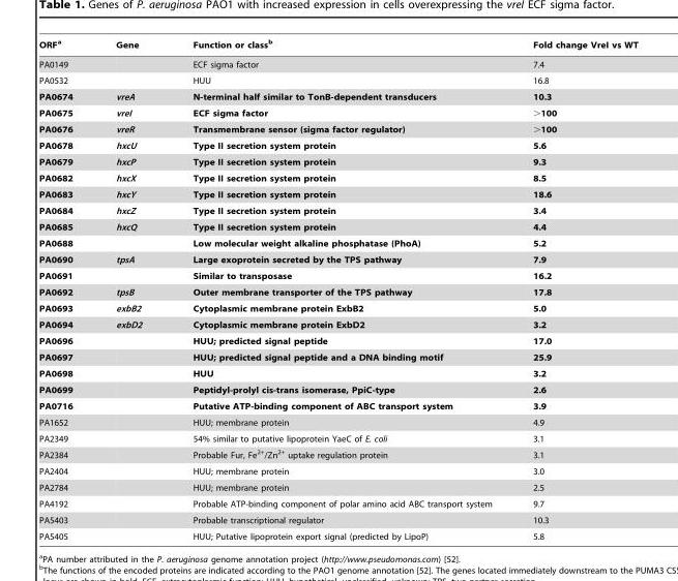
<table><thead><tr><td>ORF<sup>a</sup></td><td>Gene</td><td>Function or class<sup>b</sup></td><td>Fold change VreI vs WT</td></tr></thead><tbody><tr><td>PA0149</td><td></td><td>ECF sigma factor</td><td>7.4</td></tr><tr><td>PA0532</td><td></td><td>HUU</td><td>16.8</td></tr><tr><td>PA0674</td><td>vreA</td><td>N-terminal half similar to TonB-dependent transducers</td><td>10.3</td></tr><tr><td>PA0675</td><td>vreI</td><td>ECF sigma factor</td><td>&gt;100</td></tr><tr><td>PA0676</td><td>vreR</td><td>Transmembrane sensor (sigma factor regulator)</td><td>&gt;100</td></tr><tr><td>PA0678</td><td>hxcU</td><td>Type II secretion system protein</td><td>5.6</td></tr><tr><td>PA0679</td><td>hxcP</td><td>Type II secretion system protein</td><td>9.3</td></tr><tr><td>PA0682</td><td>hxcX</td><td>Type II secretion system protein</td><td>8.5</td></tr><tr><td>PA0683</td><td>hxcY</td><td>Type II secretion system protein</td><td>18.6</td></tr><tr><td>PA0684</td><td>hxcZ</td><td>Type II secretion system protein</td><td>3.4</td></tr><tr><td>PA0685</td><td>hxcQ</td><td>Type II secretion system protein</td><td>4.4</td></tr><tr><td>PA0688</td><td></td><td>Low molecular weight alkaline phosphatase (PhoA)</td><td>5.2</td></tr><tr><td>PA0690</td><td>tpsA</td><td>Large exoprotein secreted by the TPS pathway</td><td>7.9</td></tr><tr><td>PA0691</td><td></td><td>Similar to transposase</td><td>16.2</td></tr><tr><td>PA0692</td><td>tpsB</td><td>Outer membrane transporter of the TPS pathway</td><td>17.8</td></tr><tr><td>PA0693</td><td>exbB2</td><td>Cytoplasmic membrane protein ExbB2</td><td>5.0</td></tr><tr><td>PA0694</td><td>exbD2</td><td>Cytoplasmic membrane protein ExbD2</td><td>3.2</td></tr><tr><td>PA0696</td><td></td><td>HUU; predicted signal peptide</td><td>17.0</td></tr><tr><td>PA0697</td><td></td><td>HUU; predicted signal peptide and a DNA binding motif</td><td>25.9</td></tr><tr><td>PA0698</td><td></td><td>HUU</td><td>3.2</td></tr><tr><td>PA0699</td><td></td><td>Peptidyl-prolyl cis-trans isomerase, PpiC-type</td><td>2.6</td></tr><tr><td>PA0716</td><td></td><td>Putative ATP-binding component of ABC transport system</td><td>3.9</td></tr><tr><td>PA1652</td><td></td><td>HUU; membrane protein</td><td>4.9</td></tr><tr><td>PA2349</td><td></td><td>54% similar to putative lipoprotein YaeC of E. coli</td><td>3.1</td></tr><tr><td>PA2384</td><td></td><td>Probable Fur, Fe<sup>2+</sup>/Zn<sup>2+</sup> uptake regulation protein</td><td>3.1</td></tr><tr><td>PA2404</td><td></td><td>HUU; membrane protein</td><td>3.0</td></tr><tr><td>PA2784</td><td></td><td>HUU; membrane protein</td><td>2.5</td></tr><tr><td>PA4192</td><td></td><td>Probable ATP-binding component of polar amino acid ABC transport system</td><td>9.7</td></tr><tr><td>PA5403</td><td></td><td>Probable transcriptional regulator</td><td>10.3</td></tr><tr><td>PA5405</td><td></td><td>HUU; Putative lipoprotein export signal (predicted by LipoP)</td><td>5.8</td></tr></tbody></table>